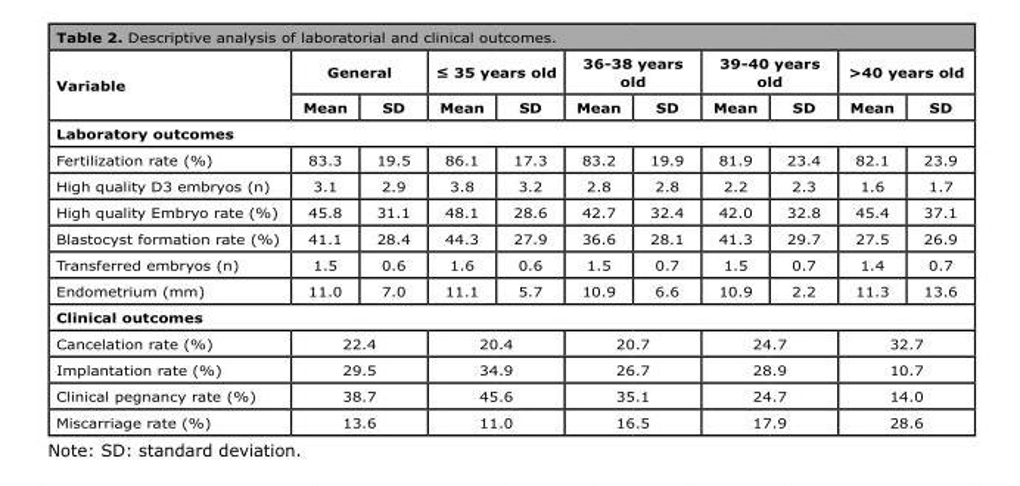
<table><thead><tr><td rowspan="2">Variable</td><td colspan="2">General</td><td colspan="2">≤ 35 years old</td><td colspan="2">36-38 years old</td><td colspan="2">39-40 years old</td><td colspan="2">&gt;40 years old</td></tr><tr><td>Mean</td><td>SD</td><td>Mean</td><td>SD</td><td>Mean</td><td>SD</td><td>Mean</td><td>SD</td><td>Mean</td><td>SD</td></tr></thead><tbody><tr><td colspan="11">Laboratory outcomes</td></tr><tr><td>Fertilization rate (%)</td><td>83.3</td><td>19.5</td><td>86.1</td><td>17.3</td><td>83.2</td><td>19.9</td><td>81.9</td><td>23.4</td><td>82.1</td><td>23.9</td></tr><tr><td>High quality D3 embryos (n)</td><td>3.1</td><td>2.9</td><td>3.8</td><td>3.2</td><td>2.8</td><td>2.8</td><td>2.2</td><td>2.3</td><td>1.6</td><td>1.7</td></tr><tr><td>High quality Embryo rate (%)</td><td>45.8</td><td>31.1</td><td>48.1</td><td>28.6</td><td>42.7</td><td>32.4</td><td>42.0</td><td>32.8</td><td>45.4</td><td>37.1</td></tr><tr><td>Blastocyst formation rate (%)</td><td>41.1</td><td>28.4</td><td>44.3</td><td>27.9</td><td>36.6</td><td>28.1</td><td>41.3</td><td>29.7</td><td>27.5</td><td>26.9</td></tr><tr><td>Transferred embryos (n)</td><td>1.5</td><td>0.6</td><td>1.6</td><td>0.6</td><td>1.5</td><td>0.7</td><td>1.5</td><td>0.7</td><td>1.4</td><td>0.7</td></tr><tr><td>Endometrium (mm)</td><td>11.0</td><td>7.0</td><td>11.1</td><td>5.7</td><td>10.9</td><td>6.6</td><td>10.9</td><td>2.2</td><td>11.3</td><td>13.6</td></tr><tr><td colspan="11">Clinical outcomes</td></tr><tr><td>Cancelation rate (%)</td><td colspan="2">22.4</td><td colspan="2">20.4</td><td colspan="2">20.7</td><td colspan="2">24.7</td><td colspan="2">32.7</td></tr><tr><td>Implantation rate (%)</td><td colspan="2">29.5</td><td colspan="2">34.9</td><td colspan="2">26.7</td><td colspan="2">28.9</td><td colspan="2">10.7</td></tr><tr><td>Clinical pegnancy rate (%)</td><td colspan="2">38.7</td><td colspan="2">45.6</td><td colspan="2">35.1</td><td colspan="2">24.7</td><td colspan="2">14.0</td></tr><tr><td>Miscarriage rate (%)</td><td colspan="2">13.6</td><td colspan="2">11.0</td><td colspan="2">16.5</td><td colspan="2">17.9</td><td colspan="2">28.6</td></tr></tbody></table>